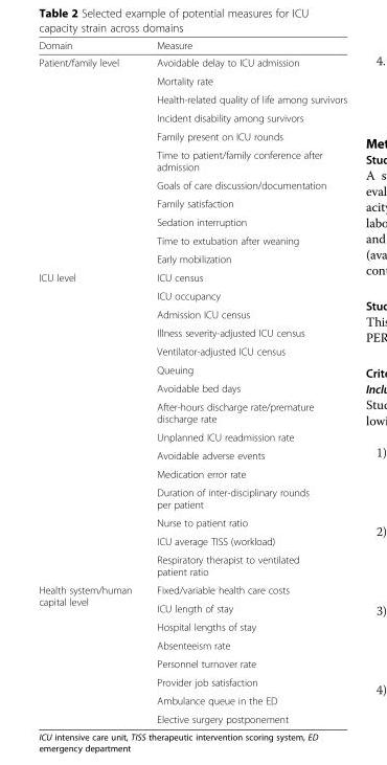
<table><thead><tr><td>Domain</td><td>Measure</td></tr></thead><tbody><tr><td rowspan="11">Patient/family level</td><td>Avoidable delay to ICU admission</td></tr><tr><td>Mortality rate</td></tr><tr><td>Health-related quality of life among survivors</td></tr><tr><td>Incident disability among survivors</td></tr><tr><td>Family present on ICU rounds</td></tr><tr><td>Time to patient/family conference after admission</td></tr><tr><td>Goals of care discussion/documentation</td></tr><tr><td>Family satisfaction</td></tr><tr><td>Sedation interruption</td></tr><tr><td>Time to extubation after weaning</td></tr><tr><td>Early mobilization</td></tr><tr><td rowspan="15">ICU level</td><td>ICU census</td></tr><tr><td>ICU occupancy</td></tr><tr><td>Admission ICU census</td></tr><tr><td>Illness severity-adjusted ICU census</td></tr><tr><td>Ventilator-adjusted ICU census</td></tr><tr><td>Queuing</td></tr><tr><td>Avoidable bed days</td></tr><tr><td>After-hours discharge rate/premature discharge rate</td></tr><tr><td>Unplanned ICU readmission rate</td></tr><tr><td>Avoidable adverse events</td></tr><tr><td>Medication error rate</td></tr><tr><td>Duration of inter-disciplinary rounds per patient</td></tr><tr><td>Nurse to patient ratio</td></tr><tr><td>ICU average TISS (workload)</td></tr><tr><td>Respiratory therapist to ventilated patient ratio</td></tr><tr><td rowspan="8">Health system/human capital level</td><td>Fixed/variable health care costs</td></tr><tr><td>ICU length of stay</td></tr><tr><td>Hospital lengths of stay</td></tr><tr><td>Absenteeism rate</td></tr><tr><td>Personnel turnover rate</td></tr><tr><td>Provider job satisfaction</td></tr><tr><td>Ambulance queue in the ED</td></tr><tr><td>Elective surgery postponement</td></tr></tbody></table>